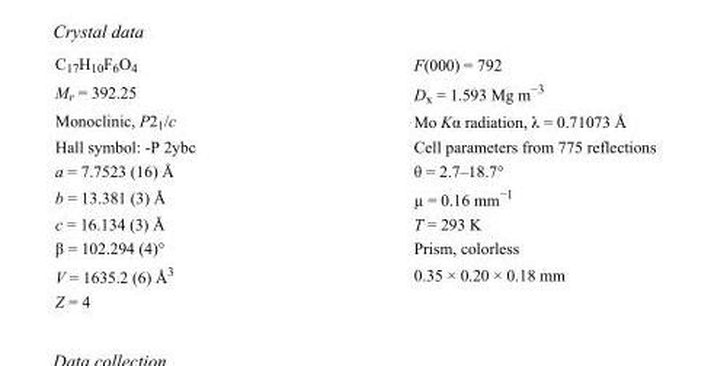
<table><tbody><tr><td>C<sub>17</sub>H<sub>10</sub>F<sub>6</sub>O<sub>4</sub></td><td>F(000) = 792</td></tr><tr><td>M<sub>r</sub> = 392.25</td><td>D<sub>x</sub> = 1.593 Mg m<sup>−3</sup></td></tr><tr><td>Monoclinic, P2<sub>1</sub>/c</td><td>Mo Kα radiation, λ = 0.71073 Å</td></tr><tr><td>Hall symbol: -P 2ybc</td><td>Cell parameters from 775 reflections</td></tr><tr><td>a = 7.7523 (16) Å</td><td>θ = 2.7–18.7°</td></tr><tr><td>b = 13.381 (3) Å</td><td>µ = 0.16 mm<sup>−1</sup></td></tr><tr><td>c = 16.134 (3) Å</td><td>T = 293 K</td></tr><tr><td>β = 102.294 (4)°</td><td>Prism, colorless</td></tr><tr><td>V = 1635.2 (6) Å<sup>3</sup></td><td>0.35 × 0.20 × 0.18 mm</td></tr><tr><td>Z = 4</td><td></td></tr></tbody></table>